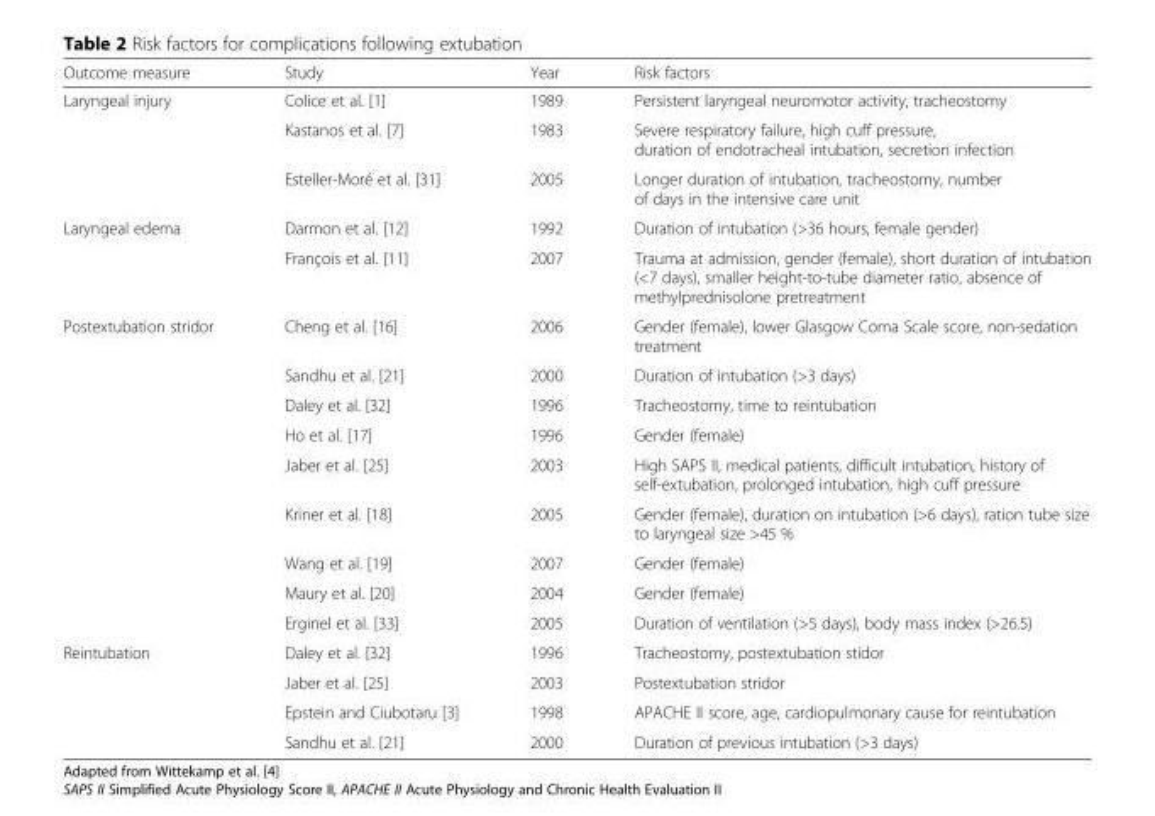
<table><thead><tr><td>Outcome measure</td><td>Study</td><td>Year</td><td>Risk factors</td></tr></thead><tbody><tr><td rowspan="3">Laryngeal injury</td><td>Colice et al. [1]</td><td>1989</td><td>Persistent laryngeal neuromotor activity, tracheostomy</td></tr><tr><td>Kastanos et al. [7]</td><td>1983</td><td>Severe respiratory failure, high cuff pressure, duration of endotracheal intubation, secretion infection</td></tr><tr><td>Esteller-Moré et al. [31]</td><td>2005</td><td>Longer duration of intubation, tracheostomy, number of days in the intensive care unit</td></tr><tr><td rowspan="2">Laryngeal edema</td><td>Darmon et al. [12]</td><td>1992</td><td>Duration of intubation (&gt;36 hours, female gender)</td></tr><tr><td>François et al. [11]</td><td>2007</td><td>Trauma at admission, gender (female), short duration of intubation (&lt;7 days), smaller height-to-tube diameter ratio, absence of methylprednisolone pretreatment</td></tr><tr><td rowspan="9">Postextubation stridor</td><td>Cheng et al. [16]</td><td>2006</td><td>Gender (female), lower Glasgow Coma Scale score, non-sedation treatment</td></tr><tr><td>Sandhu et al. [21]</td><td>2000</td><td>Duration of intubation (&gt;3 days)</td></tr><tr><td>Daley et al. [32]</td><td>1996</td><td>Tracheostomy, time to reintubation</td></tr><tr><td>Ho et al. [17]</td><td>1996</td><td>Gender (female)</td></tr><tr><td>Jaber et al. [25]</td><td>2003</td><td>High SAPS II, medical patients, difficult intubation, history of self-extubation, prolonged intubation, high cuff pressure</td></tr><tr><td>Kriner et al. [18]</td><td>2005</td><td>Gender (female), duration on intubation (&gt;6 days), ration tube size to laryngeal size &gt;45 %</td></tr><tr><td>Wang et al. [19]</td><td>2007</td><td>Gender (female)</td></tr><tr><td>Maury et al. [20]</td><td>2004</td><td>Gender (female)</td></tr><tr><td>Erginel et al. [33]</td><td>2005</td><td>Duration of ventilation (&gt;5 days), body mass index (&gt;26.5)</td></tr><tr><td rowspan="4">Reintubation</td><td>Daley et al. [32]</td><td>1996</td><td>Tracheostomy, postextubation stidor</td></tr><tr><td>Jaber et al. [25]</td><td>2003</td><td>Postextubation stridor</td></tr><tr><td>Epstein and Ciubotaru [3]</td><td>1998</td><td>APACHE II score, age, cardiopulmonary cause for reintubation</td></tr><tr><td>Sandhu et al. [21]</td><td>2000</td><td>Duration of previous intubation (&gt;3 days)</td></tr></tbody></table>